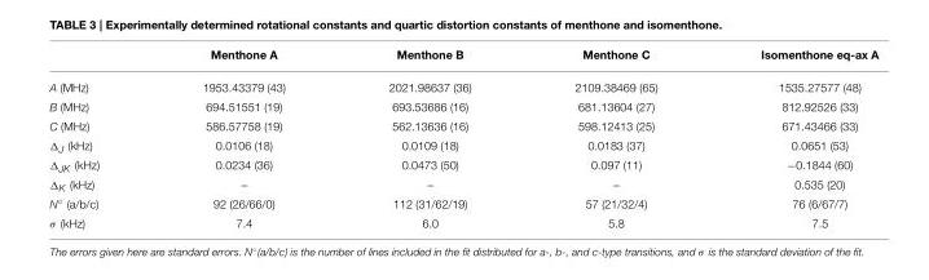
<table><thead><tr><td></td><td>Menthone A</td><td>Menthone B</td><td>Menthone C</td><td>Isomenthone eq-ax A</td></tr></thead><tbody><tr><td>A (MHz)</td><td>1953.43379 (43)</td><td>2021.98637 (36)</td><td>2109.38469 (65)</td><td>1535.27577 (48)</td></tr><tr><td>B (MHz)</td><td>694.51551 (19)</td><td>693.53686 (16)</td><td>681.13604 (27)</td><td>812.92526 (33)</td></tr><tr><td>C (MHz)</td><td>586.57758 (19)</td><td>562.13636 (16)</td><td>598.12413 (25)</td><td>671.43466 (33)</td></tr><tr><td>Δ<sub>J</sub> (kHz)</td><td>0.0106 (18)</td><td>0.0109 (18)</td><td>0.0183 (37)</td><td>0.0651 (53)</td></tr><tr><td>Δ<sub>JK</sub> (kHz)</td><td>0.0234 (36)</td><td>0.0473 (50)</td><td>0.097 (11)</td><td>−0.1844 (60)</td></tr><tr><td>Δ<sub>K</sub> (kHz)</td><td>–</td><td>–</td><td>–</td><td>0.535 (20)</td></tr><tr><td>N◦ (a/b/c)</td><td>92 (26/66/0)</td><td>112 (31/62/19)</td><td>57 (21/32/4)</td><td>76 (6/67/7)</td></tr><tr><td>σ (kHz)</td><td>7.4</td><td>6.0</td><td>5.8</td><td>7.5</td></tr></tbody></table>